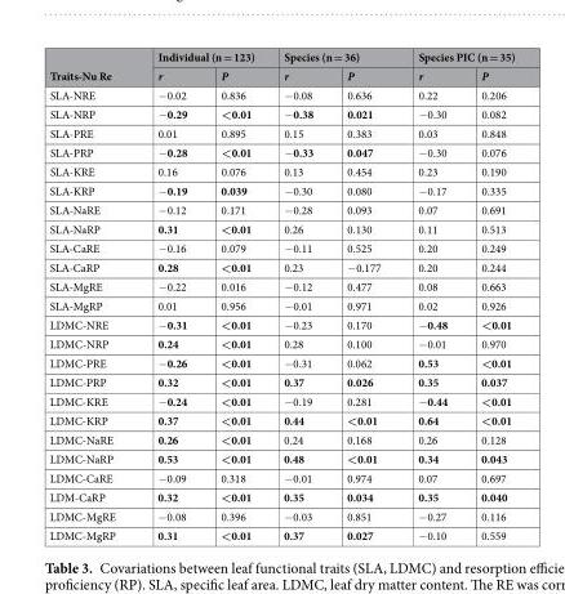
<table><thead><tr><td rowspan="2">Traits-Nu Re</td><td colspan="2">Individual (n = 123)</td><td colspan="2">Species (n = 36)</td><td colspan="2">Species PIC (n = 35)</td></tr><tr><td>r</td><td>P</td><td>r</td><td>P</td><td>r</td><td>P</td></tr></thead><tbody><tr><td>SLA-NRE</td><td>−0.02</td><td>0.836</td><td>−0.08</td><td>0.636</td><td>0.22</td><td>0.206</td></tr><tr><td>SLA-NRP</td><td>−0.29</td><td>&lt;0.01</td><td>−0.38</td><td>0.021</td><td>−0.30</td><td>0.082</td></tr><tr><td>SLA-PRE</td><td>0.01</td><td>0.895</td><td>0.15</td><td>0.383</td><td>0.03</td><td>0.848</td></tr><tr><td>SLA-PRP</td><td>−0.28</td><td>&lt;0.01</td><td>−0.33</td><td>0.047</td><td>−0.30</td><td>0.076</td></tr><tr><td>SLA-KRE</td><td>0.16</td><td>0.076</td><td>0.13</td><td>0.454</td><td>0.23</td><td>0.190</td></tr><tr><td>SLA-KRP</td><td>−0.19</td><td>0.039</td><td>−0.30</td><td>0.080</td><td>−0.17</td><td>0.335</td></tr><tr><td>SLA-NaRE</td><td>−0.12</td><td>0.171</td><td>−0.28</td><td>0.093</td><td>0.07</td><td>0.691</td></tr><tr><td>SLA-NaRP</td><td>0.31</td><td>&lt;0.01</td><td>0.26</td><td>0.130</td><td>0.11</td><td>0.513</td></tr><tr><td>SLA-CaRE</td><td>−0.16</td><td>0.079</td><td>−0.11</td><td>0.525</td><td>0.20</td><td>0.249</td></tr><tr><td>SLA-CaRP</td><td>0.28</td><td>&lt;0.01</td><td>0.23</td><td>−0.177</td><td>0.20</td><td>0.244</td></tr><tr><td>SLA-MgRE</td><td>−0.22</td><td>0.016</td><td>−0.12</td><td>0.477</td><td>0.08</td><td>0.663</td></tr><tr><td>SLA-MgRP</td><td>0.01</td><td>0.956</td><td>−0.01</td><td>0.971</td><td>0.02</td><td>0.926</td></tr><tr><td>LDMC-NRE</td><td>−0.31</td><td>&lt;0.01</td><td>−0.23</td><td>0.170</td><td>−0.48</td><td>&lt;0.01</td></tr><tr><td>LDMC-NRP</td><td>0.24</td><td>&lt;0.01</td><td>0.28</td><td>0.100</td><td>−0.01</td><td>0.970</td></tr><tr><td>LDMC-PRE</td><td>−0.26</td><td>&lt;0.01</td><td>−0.31</td><td>0.062</td><td>0.53</td><td>&lt;0.01</td></tr><tr><td>LDMC-PRP</td><td>0.32</td><td>&lt;0.01</td><td>0.37</td><td>0.026</td><td>0.35</td><td>0.037</td></tr><tr><td>LDMC-KRE</td><td>−0.24</td><td>&lt;0.01</td><td>−0.19</td><td>0.281</td><td>−0.44</td><td>&lt;0.01</td></tr><tr><td>LDMC-KRP</td><td>0.37</td><td>&lt;0.01</td><td>0.44</td><td>&lt;0.01</td><td>0.64</td><td>&lt;0.01</td></tr><tr><td>LDMC-NaRE</td><td>0.26</td><td>&lt;0.01</td><td>0.24</td><td>0.168</td><td>0.26</td><td>0.128</td></tr><tr><td>LDMC-NaRP</td><td>0.53</td><td>&lt;0.01</td><td>0.48</td><td>&lt;0.01</td><td>0.34</td><td>0.043</td></tr><tr><td>LDMC-CaRE</td><td>−0.09</td><td>0.318</td><td>−0.01</td><td>0.974</td><td>0.07</td><td>0.697</td></tr><tr><td>LDM-CaRP</td><td>0.32</td><td>&lt;0.01</td><td>0.35</td><td>0.034</td><td>0.35</td><td>0.040</td></tr><tr><td>LDMC-MgRE</td><td>−0.08</td><td>0.396</td><td>−0.03</td><td>0.851</td><td>−0.27</td><td>0.116</td></tr><tr><td>LDMC-MgRP</td><td>0.31</td><td>&lt;0.01</td><td>0.37</td><td>0.027</td><td>−0.10</td><td>0.559</td></tr></tbody></table>